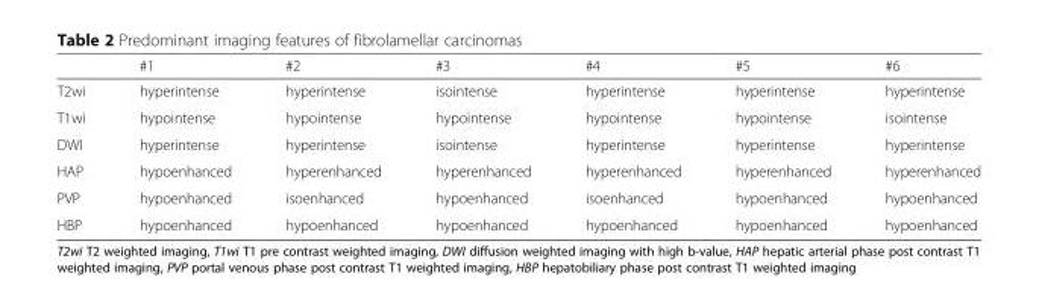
<table><thead><tr><td></td><td>#1</td><td>#2</td><td>#3</td><td>#4</td><td>#5</td><td>#6</td></tr></thead><tbody><tr><td>T2wi</td><td>hyperintense</td><td>hyperintense</td><td>isointense</td><td>hyperintense</td><td>hyperintense</td><td>hyperintense</td></tr><tr><td>T1wi</td><td>hypointense</td><td>hypointense</td><td>hypointense</td><td>hypointense</td><td>hypointense</td><td>isointense</td></tr><tr><td>DWI</td><td>hyperintense</td><td>hyperintense</td><td>isointense</td><td>hyperintense</td><td>hyperintense</td><td>hyperintense</td></tr><tr><td>HAP</td><td>hypoenhanced</td><td>hyperenhanced</td><td>hyperenhanced</td><td>hyperenhanced</td><td>hyperenhanced</td><td>hyperenhanced</td></tr><tr><td>PVP</td><td>hypoenhanced</td><td>isoenhanced</td><td>hypoenhanced</td><td>isoenhanced</td><td>hypoenhanced</td><td>hypoenhanced</td></tr><tr><td>HBP</td><td>hypoenhanced</td><td>hypoenhanced</td><td>hypoenhanced</td><td>hypoenhanced</td><td>hypoenhanced</td><td>hypoenhanced</td></tr></tbody></table>